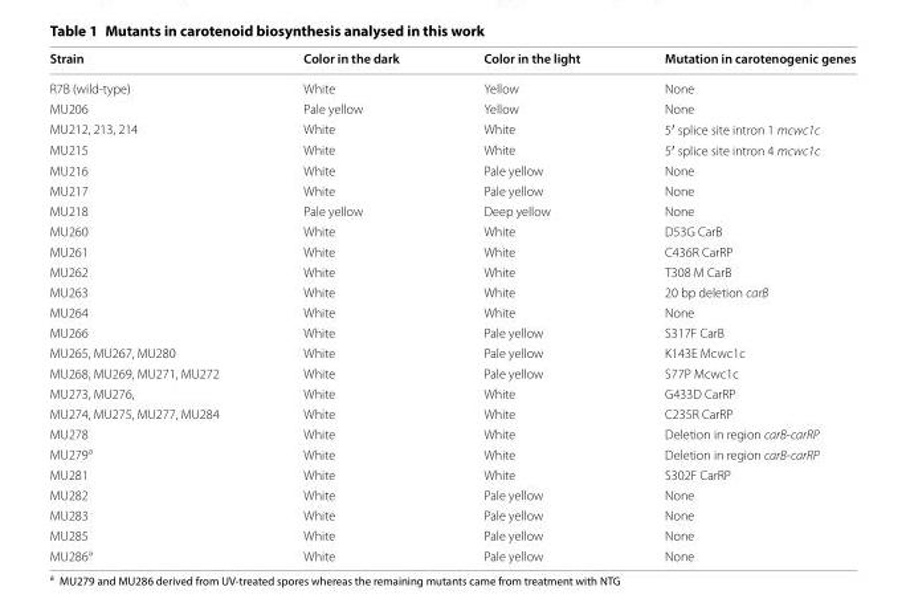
<table><thead><tr><td>Strain</td><td>Color in the dark</td><td>Color in the light</td><td>Mutation in carotenogenic genes</td></tr></thead><tbody><tr><td>R7B (wild‑type)</td><td>White</td><td>Yellow</td><td>None</td></tr><tr><td>MU206</td><td>Pale yellow</td><td>Yellow</td><td>None</td></tr><tr><td>MU212, 213, 214</td><td>White</td><td>White</td><td>5′ splice site intron 1 mcwc1c</td></tr><tr><td>MU215</td><td>White</td><td>White</td><td>5′ splice site intron 4 mcwc1c</td></tr><tr><td>MU216</td><td>White</td><td>Pale yellow</td><td>None</td></tr><tr><td>MU217</td><td>White</td><td>Pale yellow</td><td>None</td></tr><tr><td>MU218</td><td>Pale yellow</td><td>Deep yellow</td><td>None</td></tr><tr><td>MU260</td><td>White</td><td>White</td><td>D53G CarB</td></tr><tr><td>MU261</td><td>White</td><td>White</td><td>C436R CarRP</td></tr><tr><td>MU262</td><td>White</td><td>White</td><td>T308 M CarB</td></tr><tr><td>MU263</td><td>White</td><td>White</td><td>20 bp deletion carB</td></tr><tr><td>MU264</td><td>White</td><td>White</td><td>None</td></tr><tr><td>MU266</td><td>White</td><td>Pale yellow</td><td>S317F CarB</td></tr><tr><td>MU265, MU267, MU280</td><td>White</td><td>Pale yellow</td><td>K143E Mcwc1c</td></tr><tr><td>MU268, MU269, MU271, MU272</td><td>White</td><td>Pale yellow</td><td>S77P Mcwc1c</td></tr><tr><td>MU273, MU276,</td><td>White</td><td>White</td><td>G433D CarRP</td></tr><tr><td>MU274, MU275, MU277, MU284</td><td>White</td><td>White</td><td>C235R CarRP</td></tr><tr><td>MU278</td><td>White</td><td>White</td><td>Deletion in region carB‑carRP</td></tr><tr><td>MU279<sup>a</sup></td><td>White</td><td>White</td><td>Deletion in region carB‑carRP</td></tr><tr><td>MU281</td><td>White</td><td>White</td><td>S302F CarRP</td></tr><tr><td>MU282</td><td>White</td><td>Pale yellow</td><td>None</td></tr><tr><td>MU283</td><td>White</td><td>Pale yellow</td><td>None</td></tr><tr><td>MU285</td><td>White</td><td>Pale yellow</td><td>None</td></tr><tr><td>MU286<sup>a</sup></td><td>White</td><td>Pale yellow</td><td>None</td></tr></tbody></table>